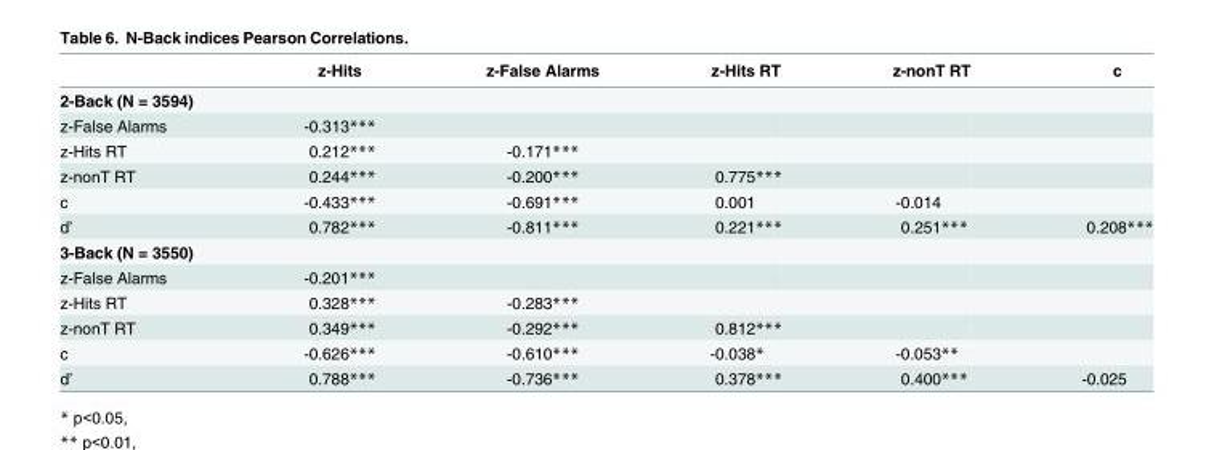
<table><thead><tr><td></td><td>z-Hits</td><td>z-False Alarms</td><td>z-Hits RT</td><td>z-nonT RT</td><td>c</td></tr></thead><tbody><tr><td colspan="6">2-Back (N = 3594)</td></tr><tr><td>z-False Alarms</td><td>-0.313***</td><td></td><td></td><td></td><td></td></tr><tr><td>z-Hits RT</td><td>0.212***</td><td>-0.171***</td><td></td><td></td><td></td></tr><tr><td>z-nonT RT</td><td>0.244***</td><td>-0.200***</td><td>0.775***</td><td></td><td></td></tr><tr><td>c</td><td>-0.433***</td><td>-0.691***</td><td>0.001</td><td>-0.014</td><td></td></tr><tr><td>d’</td><td>0.782***</td><td>-0.811***</td><td>0.221***</td><td>0.251***</td><td>0.208***</td></tr><tr><td colspan="6">3-Back (N = 3550)</td></tr><tr><td>z-False Alarms</td><td>-0.201***</td><td></td><td></td><td></td><td></td></tr><tr><td>z-Hits RT</td><td>0.328***</td><td>-0.283***</td><td></td><td></td><td></td></tr><tr><td>z-nonT RT</td><td>0.349***</td><td>-0.292***</td><td>0.812***</td><td></td><td></td></tr><tr><td>c</td><td>-0.626***</td><td>-0.610***</td><td>-0.038*</td><td>-0.053**</td><td></td></tr><tr><td>d’</td><td>0.788***</td><td>-0.736***</td><td>0.378***</td><td>0.400***</td><td>-0.025</td></tr></tbody></table>